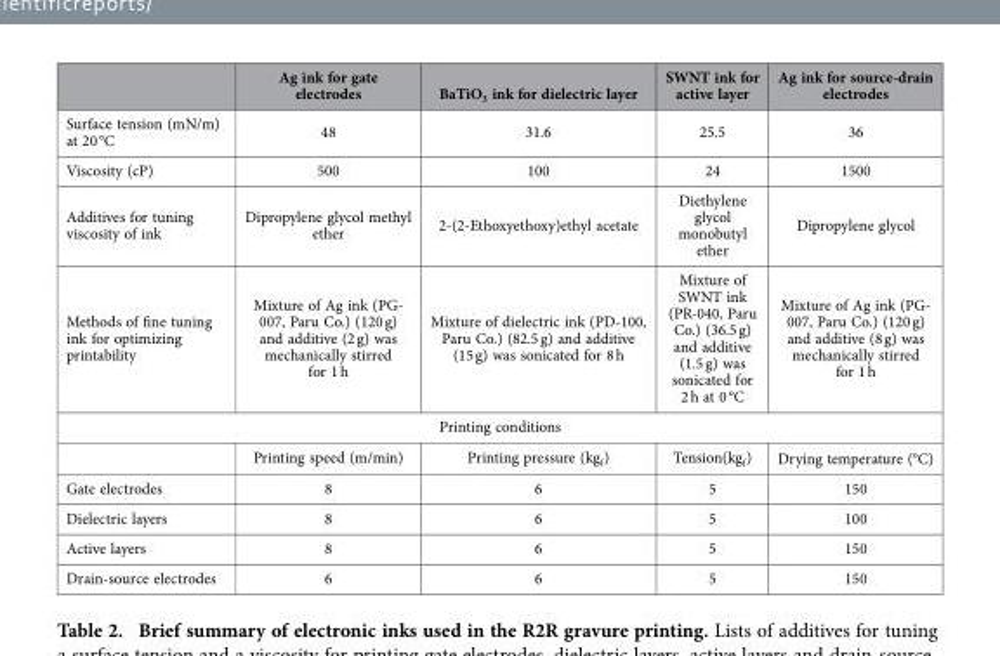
<table><thead><tr><td></td><td>Ag ink for gate electrodes</td><td>BaTiO<sub>3</sub> ink for dielectric layer</td><td>SWNT ink for active layer</td><td>Ag ink for source-drain electrodes</td></tr></thead><tbody><tr><td>Surface tension (mN/m) at 20 °C</td><td>48</td><td>31.6</td><td>25.5</td><td>36</td></tr><tr><td>Viscosity (cP)</td><td>500</td><td>100</td><td>24</td><td>1500</td></tr><tr><td>Additives for tuning viscosity of ink</td><td>Dipropylene glycol methyl ether</td><td>2-(2-Ethoxyethoxy)ethyl acetate</td><td>Diethylene glycol monobutyl ether</td><td>Dipropylene glycol</td></tr><tr><td>Methods of fine tuning ink for optimizing printability</td><td>Mixture of Ag ink (PG- 007, Paru Co.) (120 g) and additive (2 g) was mechanically stirred for 1 h</td><td>Mixture of dielectric ink (PD-100, Paru Co.) (82.5 g) and additive (15 g) was sonicated for 8 h</td><td>Mixture of SWNT ink (PR-040, Paru Co.) (36.5 g) and additive (1.5 g) was sonicated for 2 h at 0 °C</td><td>Mixture of Ag ink (PG- 007, Paru Co.) (120 g) and additive (8 g) was mechanically stirred for 1 h</td></tr><tr><td colspan="5">Printing conditions</td></tr><tr><td></td><td>Printing speed (m/min)</td><td>Printing pressure (kg<sub>f</sub>)</td><td>Tension(kg<sub>f</sub>)</td><td>Drying temperature (°C)</td></tr><tr><td>Gate electrodes</td><td>8</td><td>6</td><td>5</td><td>150</td></tr><tr><td>Dielectric layers</td><td>8</td><td>6</td><td>5</td><td>100</td></tr><tr><td>Active layers</td><td>8</td><td>6</td><td>5</td><td>150</td></tr><tr><td>Drain-source electrodes</td><td>6</td><td>6</td><td>5</td><td>150</td></tr></tbody></table>